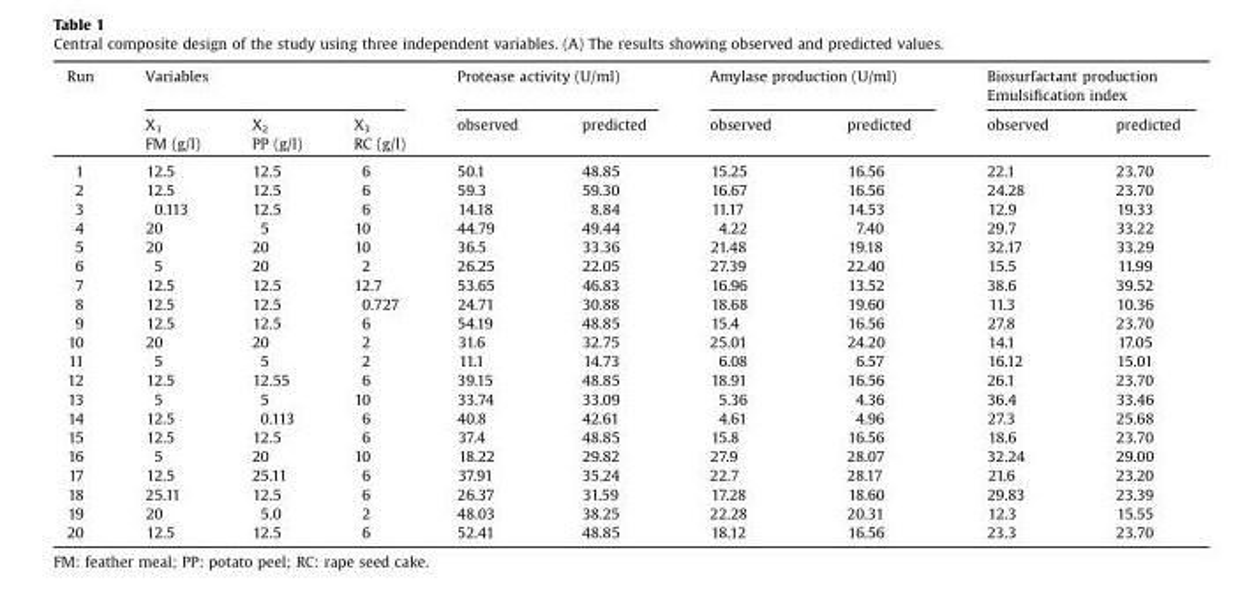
<table><thead><tr><td rowspan="3">Run</td><td colspan="3">Variables</td><td colspan="2">Protease activity (U/ml)</td><td colspan="2">Amylase production (U/ml)</td><td colspan="2">Biosurfactant production Emulsification index</td></tr><tr><td rowspan="2">X<sub>1</sub> FM (g/l)</td><td rowspan="2">X<sub>2</sub> PP (g/l)</td><td rowspan="2">X<sub>3</sub> RC (g/l)</td><td rowspan="2">observed</td><td rowspan="2">predicted</td><td rowspan="2">observed</td><td rowspan="2">predicted</td><td rowspan="2">observed</td><td rowspan="2">predicted</td></tr><tr></tr></thead><tbody><tr><td>1</td><td>12.5</td><td>12.5</td><td>6</td><td>50.1</td><td>48.85</td><td>15.25</td><td>16.56</td><td>22.1</td><td>23.70</td></tr><tr><td>2</td><td>12.5</td><td>12.5</td><td>6</td><td>59.3</td><td>59.30</td><td>16.67</td><td>16.56</td><td>24.28</td><td>23.70</td></tr><tr><td>3</td><td>0.113</td><td>12.5</td><td>6</td><td>14.18</td><td>8.84</td><td>11.17</td><td>14.53</td><td>12.9</td><td>19.33</td></tr><tr><td>4</td><td>20</td><td>5</td><td>10</td><td>44.79</td><td>49.44</td><td>4.22</td><td>7.40</td><td>29.7</td><td>33.22</td></tr><tr><td>5</td><td>20</td><td>20</td><td>10</td><td>36.5</td><td>33.36</td><td>21.48</td><td>19.18</td><td>32.17</td><td>33.29</td></tr><tr><td>6</td><td>5</td><td>20</td><td>2</td><td>26.25</td><td>22.05</td><td>27.39</td><td>22.40</td><td>15.5</td><td>11.99</td></tr><tr><td>7</td><td>12.5</td><td>12.5</td><td>12.7</td><td>53.65</td><td>46.83</td><td>16.96</td><td>13.52</td><td>38.6</td><td>39.52</td></tr><tr><td>8</td><td>12.5</td><td>12.5</td><td>0.727</td><td>24.71</td><td>30.88</td><td>18.68</td><td>19.60</td><td>11.3</td><td>10.36</td></tr><tr><td>9</td><td>12.5</td><td>12.5</td><td>6</td><td>54.19</td><td>48.85</td><td>15.4</td><td>16.56</td><td>27.8</td><td>23.70</td></tr><tr><td>10</td><td>20</td><td>20</td><td>2</td><td>31.6</td><td>32.75</td><td>25.01</td><td>24.20</td><td>14.1</td><td>17.05</td></tr><tr><td>11</td><td>5</td><td>5</td><td>2</td><td>11.1</td><td>14.73</td><td>6.08</td><td>6.57</td><td>16.12</td><td>15.01</td></tr><tr><td>12</td><td>12.5</td><td>12.55</td><td>6</td><td>39.15</td><td>48.85</td><td>18.91</td><td>16.56</td><td>26.1</td><td>23.70</td></tr><tr><td>13</td><td>5</td><td>5</td><td>10</td><td>33.74</td><td>33.09</td><td>5.36</td><td>4.36</td><td>36.4</td><td>33.46</td></tr><tr><td>14</td><td>12.5</td><td>0.113</td><td>6</td><td>40.8</td><td>42.61</td><td>4.61</td><td>4.96</td><td>27.3</td><td>25.68</td></tr><tr><td>15</td><td>12.5</td><td>12.5</td><td>6</td><td>37.4</td><td>48.85</td><td>15.8</td><td>16.56</td><td>18.6</td><td>23.70</td></tr><tr><td>16</td><td>5</td><td>20</td><td>10</td><td>18.22</td><td>29.82</td><td>27.9</td><td>28.07</td><td>32.24</td><td>29.00</td></tr><tr><td>17</td><td>12.5</td><td>25.11</td><td>6</td><td>37.91</td><td>35.24</td><td>22.7</td><td>28.17</td><td>21.6</td><td>23.20</td></tr><tr><td>18</td><td>25.11</td><td>12.5</td><td>6</td><td>26.37</td><td>31.59</td><td>17.28</td><td>18.60</td><td>29.83</td><td>23.39</td></tr><tr><td>19</td><td>20</td><td>5.0</td><td>2</td><td>48.03</td><td>38.25</td><td>22.28</td><td>20.31</td><td>12.3</td><td>15.55</td></tr><tr><td>20</td><td>12.5</td><td>12.5</td><td>6</td><td>52.41</td><td>48.85</td><td>18.12</td><td>16.56</td><td>23.3</td><td>23.70</td></tr></tbody></table>